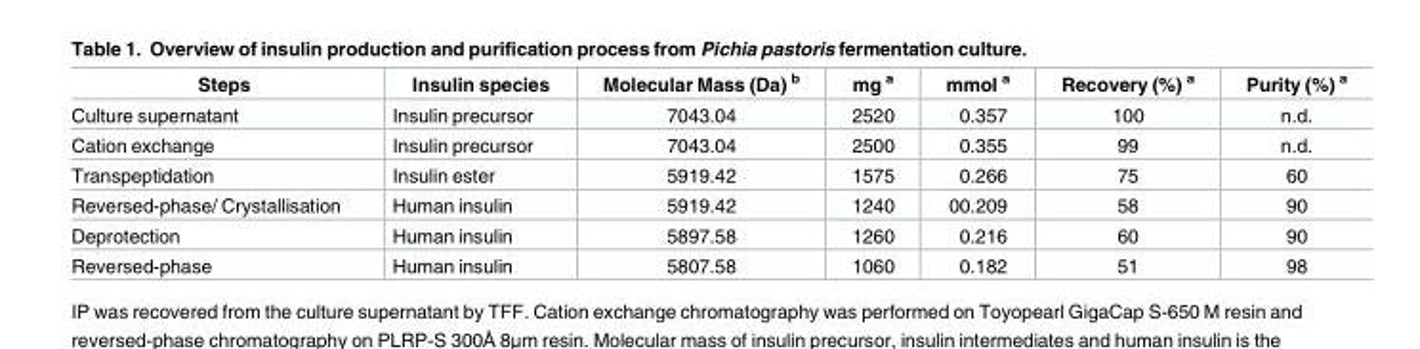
<table><thead><tr><td>Steps</td><td>Insulin species</td><td>Molecular Mass (Da) <sup>b</sup></td><td>mg <sup>a</sup></td><td>mmol <sup>a</sup></td><td>Recovery (%) <sup>a</sup></td><td>Purity (%) <sup>a</sup></td></tr></thead><tbody><tr><td>Culture supernatant</td><td>Insulin precursor</td><td>7043.04</td><td>2520</td><td>0.357</td><td>100</td><td>n.d.</td></tr><tr><td>Cation exchange</td><td>Insulin precursor</td><td>7043.04</td><td>2500</td><td>0.355</td><td>99</td><td>n.d.</td></tr><tr><td>Transpeptidation</td><td>Insulin ester</td><td>5919.42</td><td>1575</td><td>0.266</td><td>75</td><td>60</td></tr><tr><td>Reversed-phase/ Crystallisation</td><td>Human insulin</td><td>5919.42</td><td>1240</td><td>00.209</td><td>58</td><td>90</td></tr><tr><td>Deprotection</td><td>Human insulin</td><td>5897.58</td><td>1260</td><td>0.216</td><td>60</td><td>90</td></tr><tr><td>Reversed-phase</td><td>Human insulin</td><td>5807.58</td><td>1060</td><td>0.182</td><td>51</td><td>98</td></tr></tbody></table>